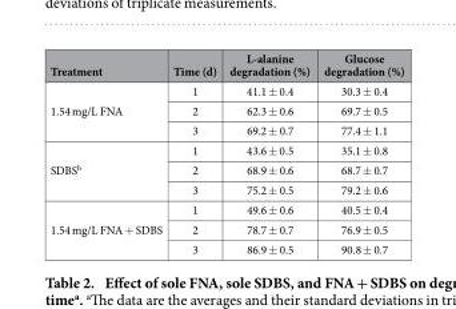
<table><thead><tr><td>Treatment</td><td>Time (d)</td><td>L-alanine degradation (%)</td><td>Glucose degradation (%)</td></tr></thead><tbody><tr><td rowspan="3">1.54 mg/L FNA</td><td>1</td><td>41.1 ± 0.4</td><td>30.3 ± 0.4</td></tr><tr><td>2</td><td>62.3 ± 0.6</td><td>69.7 ± 0.5</td></tr><tr><td>3</td><td>69.2 ± 0.7</td><td>77.4 ± 1.1</td></tr><tr><td rowspan="3">SDBS<sup>b</sup></td><td>1</td><td>43.6 ± 0.5</td><td>35.1 ± 0.8</td></tr><tr><td>2</td><td>68.9 ± 0.6</td><td>68.7 ± 0.7</td></tr><tr><td>3</td><td>75.2 ± 0.5</td><td>79.2 ± 0.6</td></tr><tr><td rowspan="3">1.54 mg/L FNA + SDBS</td><td>1</td><td>49.6 ± 0.6</td><td>40.5 ± 0.4</td></tr><tr><td>2</td><td>78.7 ± 0.7</td><td>76.9 ± 0.5</td></tr><tr><td>3</td><td>86.9 ± 0.5</td><td>90.8 ± 0.7</td></tr></tbody></table>